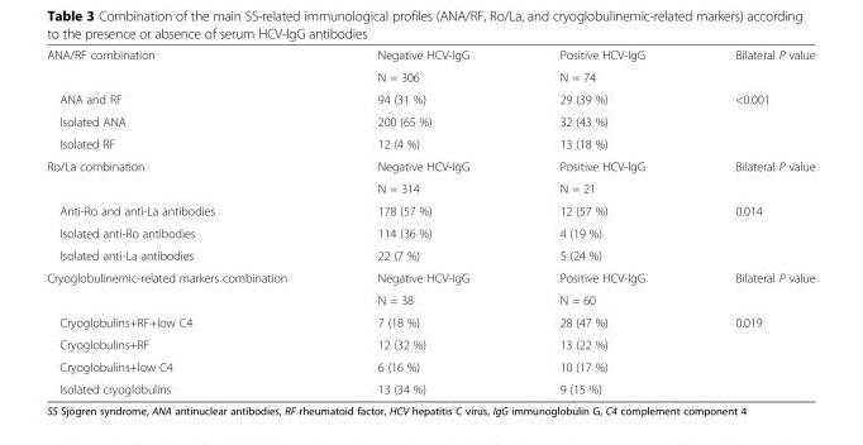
<table><tbody><tr><td rowspan="2">ANA/RF combination</td><td>Negative HCV-IgG</td><td>Positive HCV-IgG</td><td rowspan="2">Bilateral P value</td></tr><tr><td>N = 306</td><td>N = 74</td></tr><tr><td>ANA and RF</td><td>94 (31 %)</td><td>29 (39 %)</td><td rowspan="3">&lt;0.001</td></tr><tr><td>Isolated ANA</td><td>200 (65 %)</td><td>32 (43 %)</td></tr><tr><td>Isolated RF</td><td>12 (4 %)</td><td>13 (18 %)</td></tr><tr><td rowspan="2">Ro/La combination</td><td>Negative HCV-IgG</td><td>Positive HCV-IgG</td><td rowspan="2">Bilateral P value</td></tr><tr><td>N = 314</td><td>N = 21</td></tr><tr><td>Anti-Ro and anti-La antibodies</td><td>178 (57 %)</td><td>12 (57 %)</td><td rowspan="3">0.014</td></tr><tr><td>Isolated anti-Ro antibodies</td><td>114 (36 %)</td><td>4 (19 %)</td></tr><tr><td>Isolated anti-La antibodies</td><td>22 (7 %)</td><td>5 (24 %)</td></tr><tr><td rowspan="2">Cryoglobulinemic-related markers combination</td><td>Negative HCV-IgG</td><td>Positive HCV-IgG</td><td rowspan="2">Bilateral P value</td></tr><tr><td>N = 38</td><td>N = 60</td></tr><tr><td>Cryoglobulins+RF+low C4</td><td>7 (18 %)</td><td>28 (47 %)</td><td rowspan="4">0.019</td></tr><tr><td>Cryoglobulins+RF</td><td>12 (32 %)</td><td>13 (22 %)</td></tr><tr><td>Cryoglobulins+low C4</td><td>6 (16 %)</td><td>10 (17 %)</td></tr><tr><td>Isolated cryoglobulins</td><td>13 (34 %)</td><td>9 (15 %)</td></tr></tbody></table>